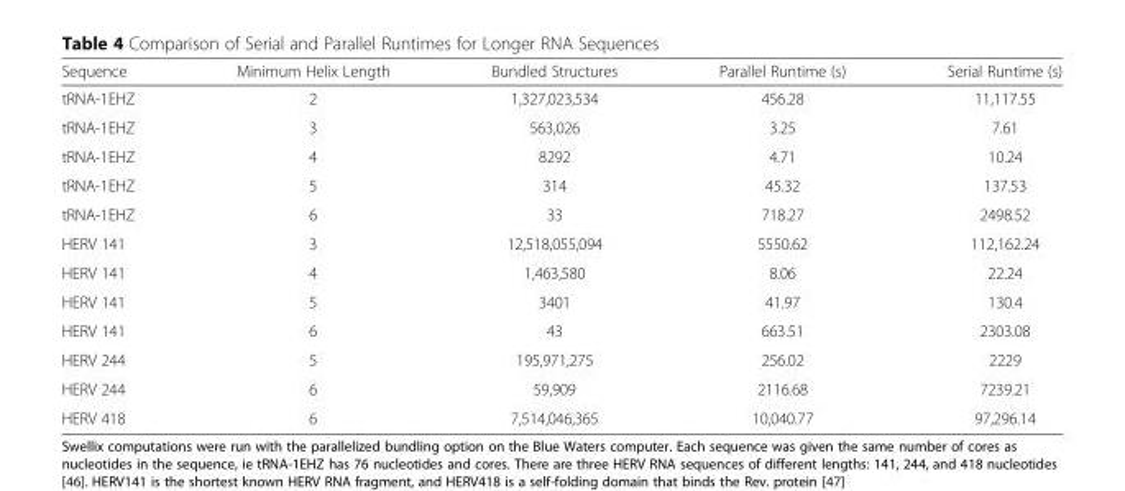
<table><thead><tr><td>Sequence</td><td>Minimum Helix Length</td><td>Bundled Structures</td><td>Parallel Runtime (s)</td><td>Serial Runtime (s)</td></tr></thead><tbody><tr><td>tRNA-1EHZ</td><td>2</td><td>1,327,023,534</td><td>456.28</td><td>11,117.55</td></tr><tr><td>tRNA-1EHZ</td><td>3</td><td>563,026</td><td>3.25</td><td>7.61</td></tr><tr><td>tRNA-1EHZ</td><td>4</td><td>8292</td><td>4.71</td><td>10.24</td></tr><tr><td>tRNA-1EHZ</td><td>5</td><td>314</td><td>45.32</td><td>137.53</td></tr><tr><td>tRNA-1EHZ</td><td>6</td><td>33</td><td>718.27</td><td>2498.52</td></tr><tr><td>HERV 141</td><td>3</td><td>12,518,055,094</td><td>5550.62</td><td>112,162.24</td></tr><tr><td>HERV 141</td><td>4</td><td>1,463,580</td><td>8.06</td><td>22.24</td></tr><tr><td>HERV 141</td><td>5</td><td>3401</td><td>41.97</td><td>130.4</td></tr><tr><td>HERV 141</td><td>6</td><td>43</td><td>663.51</td><td>2303.08</td></tr><tr><td>HERV 244</td><td>5</td><td>195,971,275</td><td>256.02</td><td>2229</td></tr><tr><td>HERV 244</td><td>6</td><td>59,909</td><td>2116.68</td><td>7239.21</td></tr><tr><td>HERV 418</td><td>6</td><td>7,514,046,365</td><td>10,040.77</td><td>97,296.14</td></tr></tbody></table>